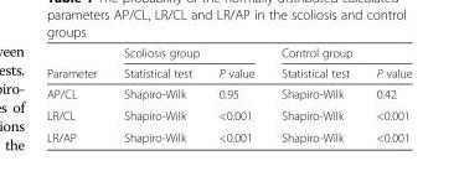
<table><thead><tr><td rowspan="2">Parameter</td><td colspan="2">Scoliosis group</td><td colspan="2">Control group</td></tr><tr><td>Statistical test</td><td>P value</td><td>Statistical test</td><td>P value</td></tr></thead><tbody><tr><td>AP/CL</td><td>Shapiro-Wilk</td><td>0.95</td><td>Shapiro-Wilk</td><td>0.42</td></tr><tr><td>LR/CL</td><td>Shapiro-Wilk</td><td>&lt;0.001</td><td>Shapiro-Wilk</td><td>&lt;0.001</td></tr><tr><td>LR/AP</td><td>Shapiro-Wilk</td><td>&lt;0.001</td><td>Shapiro-Wilk</td><td>&lt;0.001</td></tr></tbody></table>